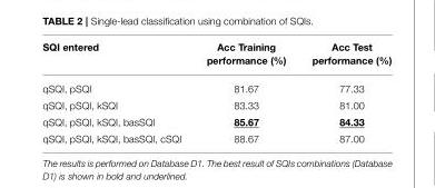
<table><thead><tr><td>SQI entered</td><td>Acc Training performance (%)</td><td>Acc Test performance (%)</td></tr></thead><tbody><tr><td>qSQI, pSQI</td><td>81.67</td><td>77.33</td></tr><tr><td>qSQI, pSQI, kSQI</td><td>83.33</td><td>81.00</td></tr><tr><td>qSQI, pSQI, kSQI, basSQI</td><td>85.67</td><td>84.33</td></tr><tr><td>qSQI, pSQI, kSQI, basSQI, cSQI</td><td>88.67</td><td>87.00</td></tr></tbody></table>